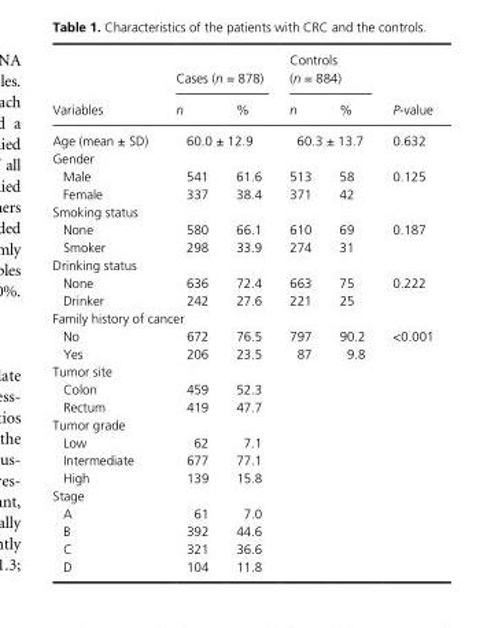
<table><thead><tr><td rowspan="2">Variables</td><td colspan="2">Cases (n = 878)</td><td colspan="2">Controls (n = 884)</td><td rowspan="2">P-value</td></tr><tr><td>n</td><td>%</td><td>n</td><td>%</td></tr></thead><tbody><tr><td>Age (mean ± SD)</td><td colspan="2">60.0 ± 12.9</td><td colspan="2">60.3 ± 13.7</td><td>0.632</td></tr><tr><td colspan="6">Gender</td></tr><tr><td>Male</td><td>541</td><td>61.6</td><td>513</td><td>58</td><td rowspan="2">0.125</td></tr><tr><td>Female</td><td>337</td><td>38.4</td><td>371</td><td>42</td></tr><tr><td colspan="6">Smoking status</td></tr><tr><td>None</td><td>580</td><td>66.1</td><td>610</td><td>69</td><td rowspan="2">0.187</td></tr><tr><td>Smoker</td><td>298</td><td>33.9</td><td>274</td><td>31</td></tr><tr><td colspan="6">Drinking status</td></tr><tr><td>None</td><td>636</td><td>72.4</td><td>663</td><td>75</td><td rowspan="2">0.222</td></tr><tr><td>Drinker</td><td>242</td><td>27.6</td><td>221</td><td>25</td></tr><tr><td colspan="6">Family history of cancer</td></tr><tr><td>No</td><td>672</td><td>76.5</td><td>797</td><td>90.2</td><td rowspan="2">&lt;0.001</td></tr><tr><td>Yes</td><td>206</td><td>23.5</td><td>87</td><td>9.8</td></tr><tr><td colspan="6">Tumor site</td></tr><tr><td>Colon</td><td>459</td><td>52.3</td><td></td><td></td><td></td></tr><tr><td>Rectum</td><td>419</td><td>47.7</td><td></td><td></td><td></td></tr><tr><td colspan="6">Tumor grade</td></tr><tr><td>Low</td><td>62</td><td>7.1</td><td></td><td></td><td></td></tr><tr><td>Intermediate</td><td>677</td><td>77.1</td><td></td><td></td><td></td></tr><tr><td>High</td><td>139</td><td>15.8</td><td></td><td></td><td></td></tr><tr><td colspan="6">Stage</td></tr><tr><td>A</td><td>61</td><td>7.0</td><td></td><td></td><td></td></tr><tr><td>B</td><td>392</td><td>44.6</td><td></td><td></td><td></td></tr><tr><td>C</td><td>321</td><td>36.6</td><td></td><td></td><td></td></tr><tr><td>D</td><td>104</td><td>11.8</td><td></td><td></td><td></td></tr></tbody></table>